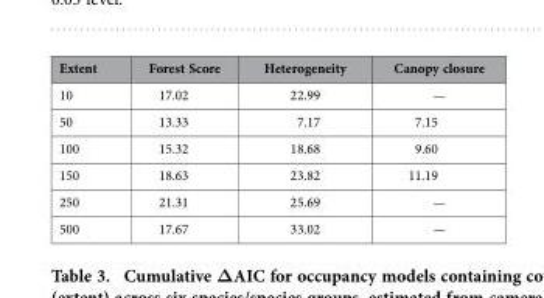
<table><thead><tr><td>Extent</td><td>Forest Score</td><td>Heterogeneity</td><td>Canopy closure</td></tr></thead><tbody><tr><td>10</td><td>17.02</td><td>22.99</td><td>—</td></tr><tr><td>50</td><td>13.33</td><td>7.17</td><td>7.15</td></tr><tr><td>100</td><td>15.32</td><td>18.68</td><td>9.60</td></tr><tr><td>150</td><td>18.63</td><td>23.82</td><td>11.19</td></tr><tr><td>250</td><td>21.31</td><td>25.69</td><td>—</td></tr><tr><td>500</td><td>17.67</td><td>33.02</td><td>—</td></tr></tbody></table>